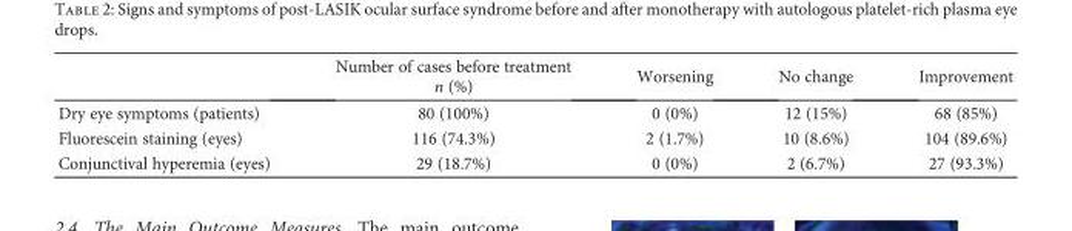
<table><thead><tr><td></td><td>Number of cases before treatment n (%)</td><td>Worsening</td><td>No change</td><td>Improvement</td></tr></thead><tbody><tr><td>Dry eye symptoms (patients)</td><td>80 (100%)</td><td>0 (0%)</td><td>12 (15%)</td><td>68 (85%)</td></tr><tr><td>Fluorescein staining (eyes)</td><td>116 (74.3%)</td><td>2 (1.7%)</td><td>10 (8.6%)</td><td>104 (89.6%)</td></tr><tr><td>Conjunctival hyperemia (eyes)</td><td>29 (18.7%)</td><td>0 (0%)</td><td>2 (6.7%)</td><td>27 (93.3%)</td></tr></tbody></table>